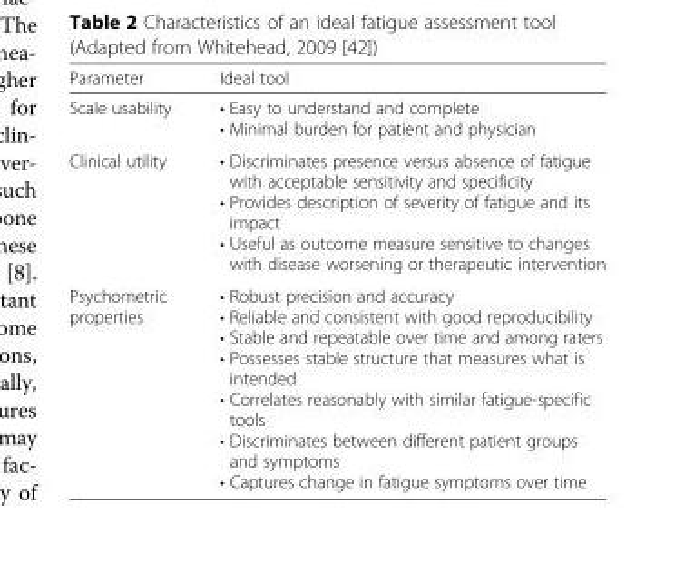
<table><thead><tr><td>Parameter</td><td>Ideal tool</td></tr></thead><tbody><tr><td>Scale usability</td><td>• Easy to understand and complete • Minimal burden for patient and physician</td></tr><tr><td>Clinical utility</td><td>• Discriminates presence versus absence of fatigue with acceptable sensitivity and specificity • Provides description of severity of fatigue and its impact • Useful as outcome measure sensitive to changes with disease worsening or therapeutic intervention</td></tr><tr><td>Psychometric properties</td><td>• Robust precision and accuracy • Reliable and consistent with good reproducibility • Stable and repeatable over time and among raters • Possesses stable structure that measures what is intended • Correlates reasonably with similar fatigue-specific tools • Discriminates between different patient groups and symptoms • Captures change in fatigue symptoms over time</td></tr></tbody></table>